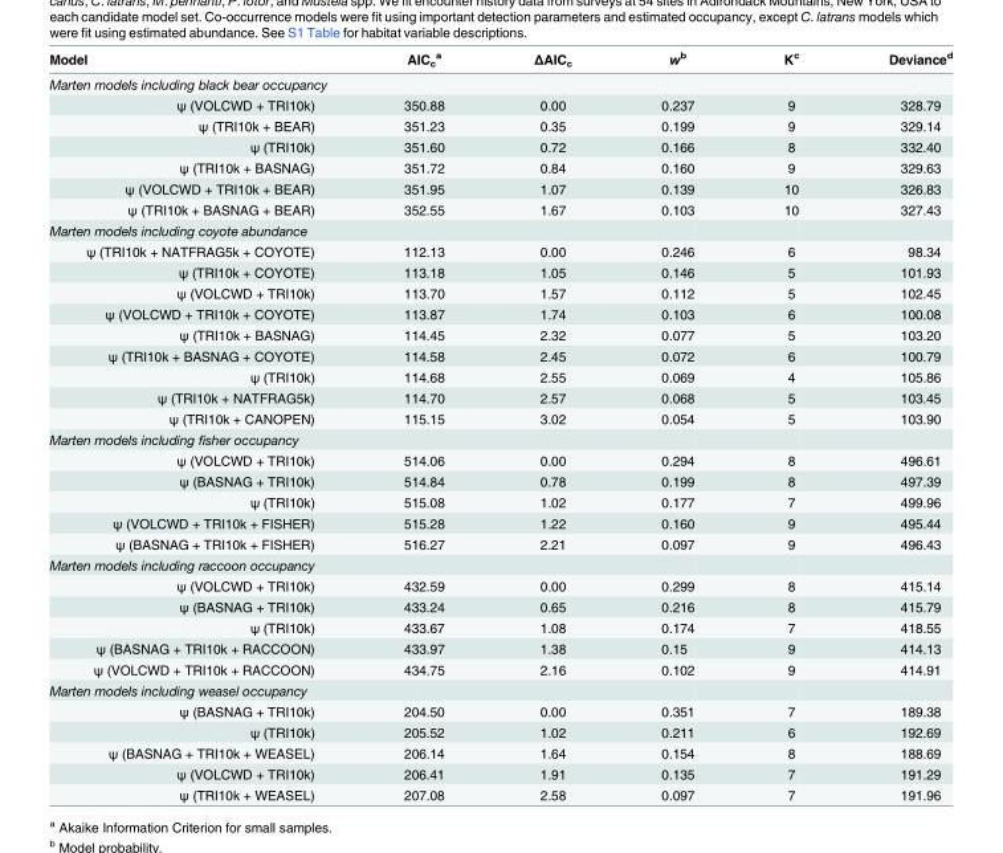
<table><thead><tr><td>Model</td><td>AIC<sub>c</sub> <sup>a</sup></td><td>ΔAIC<sub>c</sub></td><td>w<sup>b</sup></td><td>K<sup>c</sup></td><td>Deviance<sup>d</sup></td></tr></thead><tbody><tr><td colspan="6">Marten models including black bear occupancy</td></tr><tr><td>ψ (VOLCWD + TRI10k)</td><td>350.88</td><td>0.00</td><td>0.237</td><td>9</td><td>328.79</td></tr><tr><td>ψ (TRI10k + BEAR)</td><td>351.23</td><td>0.35</td><td>0.199</td><td>9</td><td>329.14</td></tr><tr><td>ψ (TRI10k)</td><td>351.60</td><td>0.72</td><td>0.166</td><td>8</td><td>332.40</td></tr><tr><td>ψ (TRI10k + BASNAG)</td><td>351.72</td><td>0.84</td><td>0.160</td><td>9</td><td>329.63</td></tr><tr><td>ψ (VOLCWD + TRI10k + BEAR)</td><td>351.95</td><td>1.07</td><td>0.139</td><td>10</td><td>326.83</td></tr><tr><td>ψ (TRI10k + BASNAG + BEAR)</td><td>352.55</td><td>1.67</td><td>0.103</td><td>10</td><td>327.43</td></tr><tr><td colspan="6">Marten models including coyote abundance</td></tr><tr><td>ψ (TRI10k + NATFRAG5k + COYOTE)</td><td>112.13</td><td>0.00</td><td>0.246</td><td>6</td><td>98.34</td></tr><tr><td>ψ (TRI10k + COYOTE)</td><td>113.18</td><td>1.05</td><td>0.146</td><td>5</td><td>101.93</td></tr><tr><td>ψ (VOLCWD + TRI10k)</td><td>113.70</td><td>1.57</td><td>0.112</td><td>5</td><td>102.45</td></tr><tr><td>ψ (VOLCWD + TRI10k + COYOTE)</td><td>113.87</td><td>1.74</td><td>0.103</td><td>6</td><td>100.08</td></tr><tr><td>ψ (TRI10k + BASNAG)</td><td>114.45</td><td>2.32</td><td>0.077</td><td>5</td><td>103.20</td></tr><tr><td>ψ (TRI10k + BASNAG + COYOTE)</td><td>114.58</td><td>2.45</td><td>0.072</td><td>6</td><td>100.79</td></tr><tr><td>ψ (TRI10k)</td><td>114.68</td><td>2.55</td><td>0.069</td><td>4</td><td>105.86</td></tr><tr><td>ψ (TRI10k + NATFRAG5k)</td><td>114.70</td><td>2.57</td><td>0.068</td><td>5</td><td>103.45</td></tr><tr><td>ψ (TRI10k + CANOPEN)</td><td>115.15</td><td>3.02</td><td>0.054</td><td>5</td><td>103.90</td></tr><tr><td colspan="6">Marten models including fisher occupancy</td></tr><tr><td>ψ (VOLCWD + TRI10k)</td><td>514.06</td><td>0.00</td><td>0.294</td><td>8</td><td>496.61</td></tr><tr><td>ψ (BASNAG + TRI10k)</td><td>514.84</td><td>0.78</td><td>0.199</td><td>8</td><td>497.39</td></tr><tr><td>ψ (TRI10k)</td><td>515.08</td><td>1.02</td><td>0.177</td><td>7</td><td>499.96</td></tr><tr><td>ψ (VOLCWD + TRI10k + FISHER)</td><td>515.28</td><td>1.22</td><td>0.160</td><td>9</td><td>495.44</td></tr><tr><td>ψ (BASNAG + TRI10k + FISHER)</td><td>516.27</td><td>2.21</td><td>0.097</td><td>9</td><td>496.43</td></tr><tr><td colspan="6">Marten models including raccoon occupancy</td></tr><tr><td>ψ (VOLCWD + TRI10k)</td><td>432.59</td><td>0.00</td><td>0.299</td><td>8</td><td>415.14</td></tr><tr><td>ψ (BASNAG + TRI10k)</td><td>433.24</td><td>0.65</td><td>0.216</td><td>8</td><td>415.79</td></tr><tr><td>ψ (TRI10k)</td><td>433.67</td><td>1.08</td><td>0.174</td><td>7</td><td>418.55</td></tr><tr><td>ψ (BASNAG + TRI10k + RACCOON)</td><td>433.97</td><td>1.38</td><td>0.15</td><td>9</td><td>414.13</td></tr><tr><td>ψ (VOLCWD + TRI10k + RACCOON)</td><td>434.75</td><td>2.16</td><td>0.102</td><td>9</td><td>414.91</td></tr><tr><td colspan="6">Marten models including weasel occupancy</td></tr><tr><td>ψ (BASNAG + TRI10k)</td><td>204.50</td><td>0.00</td><td>0.351</td><td>7</td><td>189.38</td></tr><tr><td>ψ (TRI10k)</td><td>205.52</td><td>1.02</td><td>0.211</td><td>6</td><td>192.69</td></tr><tr><td>ψ (BASNAG + TRI10k + WEASEL)</td><td>206.14</td><td>1.64</td><td>0.154</td><td>8</td><td>188.69</td></tr><tr><td>ψ (VOLCWD + TRI10k)</td><td>206.41</td><td>1.91</td><td>0.135</td><td>7</td><td>191.29</td></tr><tr><td>ψ (TRI10k + WEASEL)</td><td>207.08</td><td>2.58</td><td>0.097</td><td>7</td><td>191.96</td></tr></tbody></table>